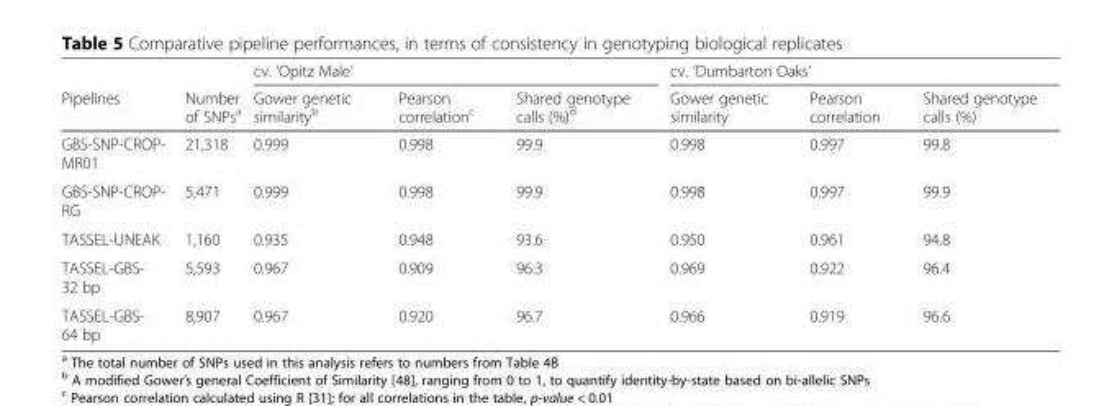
<table><thead><tr><td rowspan="2">Pipelines</td><td rowspan="2">Number of SNPs<sup>a</sup></td><td colspan="3">cv. ‘Opitz Male’</td><td colspan="3">cv. ‘Dumbarton Oaks’</td></tr><tr><td>Gower genetic similarity<sup>b</sup></td><td>Pearson correlation<sup>c</sup></td><td>Shared genotype calls (%)<sup>d</sup></td><td>Gower genetic similarity</td><td>Pearson correlation</td><td>Shared genotype calls (%)</td></tr></thead><tbody><tr><td>GBS-SNP-CROP- MR01</td><td>21,318</td><td>0.999</td><td>0.998</td><td>99.9</td><td>0.998</td><td>0.997</td><td>99.8</td></tr><tr><td>GBS-SNP-CROP- RG</td><td>5,471</td><td>0.999</td><td>0.998</td><td>99.9</td><td>0.998</td><td>0.997</td><td>99.9</td></tr><tr><td>TASSEL-UNEAK</td><td>1,160</td><td>0.935</td><td>0.948</td><td>93.6</td><td>0.950</td><td>0.961</td><td>94.8</td></tr><tr><td>TASSEL-GBS- 32 bp</td><td>5,593</td><td>0.967</td><td>0.909</td><td>96.3</td><td>0.969</td><td>0.922</td><td>96.4</td></tr><tr><td>TASSEL-GBS- 64 bp</td><td>8,907</td><td>0.967</td><td>0.920</td><td>96.7</td><td>0.966</td><td>0.919</td><td>96.6</td></tr></tbody></table>